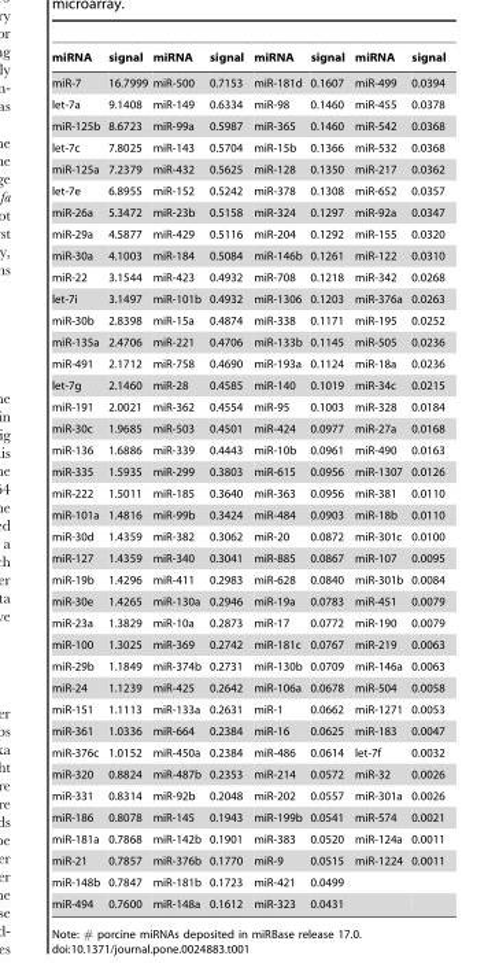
<table><thead><tr><td>miRNA</td><td>signal</td><td>miRNA</td><td>signal</td><td>miRNA</td><td>signal</td><td>miRNA</td><td>signal</td></tr></thead><tbody><tr><td>miR-7</td><td>16.7999</td><td>miR-500</td><td>0.7153</td><td>miR-181d</td><td>0.1607</td><td>miR-499</td><td>0.0394</td></tr><tr><td>let-7a</td><td>9.1408</td><td>miR-149</td><td>0.6334</td><td>miR-98</td><td>0.1460</td><td>miR-455</td><td>0.0378</td></tr><tr><td>miR-125b</td><td>8.6723</td><td>miR-99a</td><td>0.5987</td><td>miR-365</td><td>0.1460</td><td>miR-542</td><td>0.0368</td></tr><tr><td>let-7c</td><td>7.8025</td><td>miR-143</td><td>0.5704</td><td>miR-15b</td><td>0.1366</td><td>miR-532</td><td>0.0368</td></tr><tr><td>miR-125a</td><td>7.2379</td><td>miR-432</td><td>0.5625</td><td>miR-128</td><td>0.1350</td><td>miR-217</td><td>0.0362</td></tr><tr><td>let-7e</td><td>6.8955</td><td>miR-152</td><td>0.5242</td><td>miR-378</td><td>0.1308</td><td>miR-652</td><td>0.0357</td></tr><tr><td>miR-26a</td><td>5.3472</td><td>miR-23b</td><td>0.5158</td><td>miR-324</td><td>0.1297</td><td>miR-92a</td><td>0.0347</td></tr><tr><td>miR-29a</td><td>4.5877</td><td>miR-429</td><td>0.5116</td><td>miR-204</td><td>0.1292</td><td>miR-155</td><td>0.0320</td></tr><tr><td>miR-30a</td><td>4.1003</td><td>miR-184</td><td>0.5084</td><td>miR-146b</td><td>0.1261</td><td>miR-122</td><td>0.0310</td></tr><tr><td>miR-22</td><td>3.1544</td><td>miR-423</td><td>0.4932</td><td>miR-708</td><td>0.1218</td><td>miR-342</td><td>0.0268</td></tr><tr><td>let-7i</td><td>3.1497</td><td>miR-101b</td><td>0.4932</td><td>miR-1306</td><td>0.1203</td><td>miR-376a</td><td>0.0263</td></tr><tr><td>miR-30b</td><td>2.8398</td><td>miR-15a</td><td>0.4874</td><td>miR-338</td><td>0.1171</td><td>miR-195</td><td>0.0252</td></tr><tr><td>miR-135a</td><td>2.4706</td><td>miR-221</td><td>0.4706</td><td>miR-133b</td><td>0.1145</td><td>miR-505</td><td>0.0236</td></tr><tr><td>miR-491</td><td>2.1712</td><td>miR-758</td><td>0.4690</td><td>miR-193a</td><td>0.1124</td><td>miR-18a</td><td>0.0236</td></tr><tr><td>let-7g</td><td>2.1460</td><td>miR-28</td><td>0.4585</td><td>miR-140</td><td>0.1019</td><td>miR-34c</td><td>0.0215</td></tr><tr><td>miR-191</td><td>2.0021</td><td>miR-362</td><td>0.4554</td><td>miR-95</td><td>0.1003</td><td>miR-328</td><td>0.0184</td></tr><tr><td>miR-30c</td><td>1.9685</td><td>miR-503</td><td>0.4501</td><td>miR-424</td><td>0.0977</td><td>miR-27a</td><td>0.0168</td></tr><tr><td>miR-136</td><td>1.6886</td><td>miR-339</td><td>0.4443</td><td>miR-10b</td><td>0.0961</td><td>miR-490</td><td>0.0163</td></tr><tr><td>miR-335</td><td>1.5935</td><td>miR-299</td><td>0.3803</td><td>miR-615</td><td>0.0956</td><td>miR-1307</td><td>0.0126</td></tr><tr><td>miR-222</td><td>1.5011</td><td>miR-185</td><td>0.3640</td><td>miR-363</td><td>0.0956</td><td>miR-381</td><td>0.0110</td></tr><tr><td>miR-101a</td><td>1.4816</td><td>miR-99b</td><td>0.3424</td><td>miR-484</td><td>0.0903</td><td>miR-18b</td><td>0.0110</td></tr><tr><td>miR-30d</td><td>1.4359</td><td>miR-382</td><td>0.3062</td><td>miR-20</td><td>0.0872</td><td>miR-301c</td><td>0.0100</td></tr><tr><td>miR-127</td><td>1.4359</td><td>miR-340</td><td>0.3041</td><td>miR-885</td><td>0.0867</td><td>miR-107</td><td>0.0095</td></tr><tr><td>miR-19b</td><td>1.4296</td><td>miR-411</td><td>0.2983</td><td>miR-628</td><td>0.0840</td><td>miR-301b</td><td>0.0084</td></tr><tr><td>miR-30e</td><td>1.4265</td><td>miR-130a</td><td>0.2946</td><td>miR-19a</td><td>0.0783</td><td>miR-451</td><td>0.0079</td></tr><tr><td>miR-23a</td><td>1.3829</td><td>miR-10a</td><td>0.2873</td><td>miR-17</td><td>0.0772</td><td>miR-190</td><td>0.0079</td></tr><tr><td>miR-100</td><td>1.3025</td><td>miR-369</td><td>0.2742</td><td>miR-181c</td><td>0.0767</td><td>miR-219</td><td>0.0063</td></tr><tr><td>miR-29b</td><td>1.1849</td><td>miR-374b</td><td>0.2731</td><td>miR-130b</td><td>0.0709</td><td>miR-146a</td><td>0.0063</td></tr><tr><td>miR-24</td><td>1.1239</td><td>miR-425</td><td>0.2642</td><td>miR-106a</td><td>0.0678</td><td>miR-504</td><td>0.0058</td></tr><tr><td>miR-151</td><td>1.1113</td><td>miR-133a</td><td>0.2631</td><td>miR-1</td><td>0.0662</td><td>miR-1271</td><td>0.0053</td></tr><tr><td>miR-361</td><td>1.0336</td><td>miR-664</td><td>0.2384</td><td>miR-16</td><td>0.0625</td><td>miR-183</td><td>0.0047</td></tr><tr><td>miR-376c</td><td>1.0152</td><td>miR-450a</td><td>0.2384</td><td>miR-486</td><td>0.0614</td><td>let-7f</td><td>0.0032</td></tr><tr><td>miR-320</td><td>0.8824</td><td>miR-487b</td><td>0.2353</td><td>miR-214</td><td>0.0572</td><td>miR-32</td><td>0.0026</td></tr><tr><td>miR-331</td><td>0.8314</td><td>miR-92b</td><td>0.2048</td><td>miR-202</td><td>0.0557</td><td>miR-301a</td><td>0.0026</td></tr><tr><td>miR-186</td><td>0.8078</td><td>miR-145</td><td>0.1943</td><td>miR-199b</td><td>0.0541</td><td>miR-574</td><td>0.0021</td></tr><tr><td>miR-181a</td><td>0.7868</td><td>miR-142b</td><td>0.1901</td><td>miR-383</td><td>0.0520</td><td>miR-124a</td><td>0.0011</td></tr><tr><td>miR-21</td><td>0.7857</td><td>miR-376b</td><td>0.1770</td><td>miR-9</td><td>0.0515</td><td>miR-1224</td><td>0.0011</td></tr><tr><td>miR-148b</td><td>0.7847</td><td>miR-181b</td><td>0.1723</td><td>miR-421</td><td>0.0499</td><td></td><td></td></tr><tr><td>miR-494</td><td>0.7600</td><td>miR-148a</td><td>0.1612</td><td>miR-323</td><td>0.0431</td><td></td><td></td></tr></tbody></table>